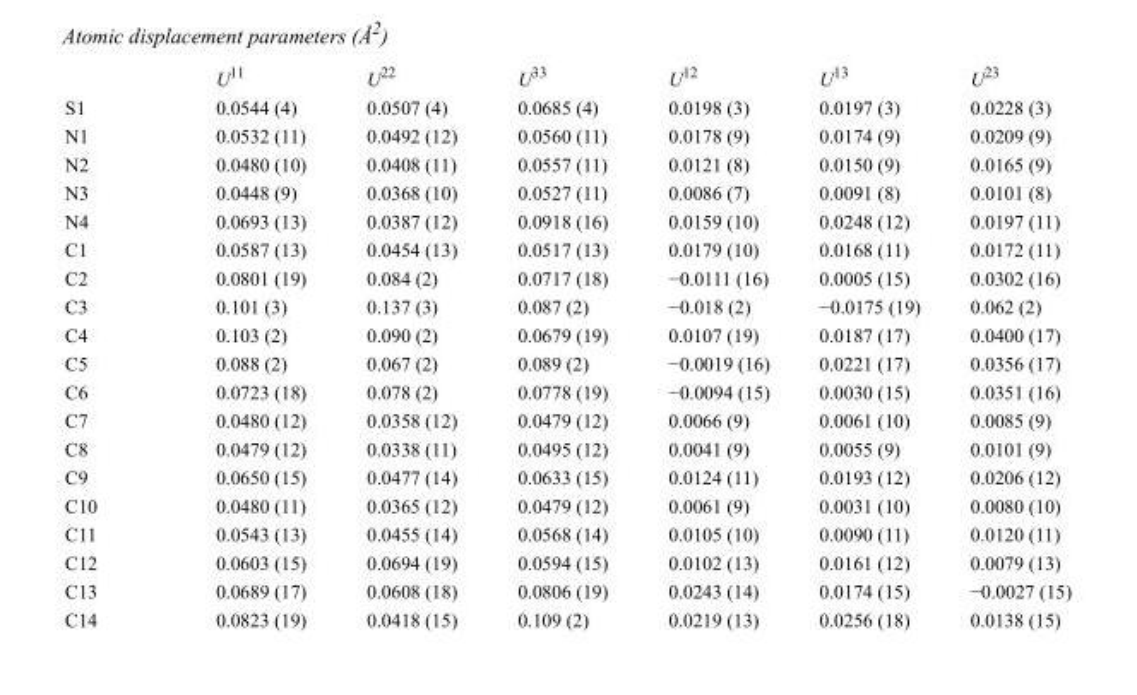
<table><thead><tr><td></td><td>U<sup>11</sup></td><td>U<sup>22</sup></td><td>U<sup>33</sup></td><td>U<sup>12</sup></td><td>U<sup>13</sup></td><td>U<sup>23</sup></td></tr></thead><tbody><tr><td>S1</td><td>0.0544 (4)</td><td>0.0507 (4)</td><td>0.0685 (4)</td><td>0.0198 (3)</td><td>0.0197 (3)</td><td>0.0228 (3)</td></tr><tr><td>N1</td><td>0.0532 (11)</td><td>0.0492 (12)</td><td>0.0560 (11)</td><td>0.0178 (9)</td><td>0.0174 (9)</td><td>0.0209 (9)</td></tr><tr><td>N2</td><td>0.0480 (10)</td><td>0.0408 (11)</td><td>0.0557 (11)</td><td>0.0121 (8)</td><td>0.0150 (9)</td><td>0.0165 (9)</td></tr><tr><td>N3</td><td>0.0448 (9)</td><td>0.0368 (10)</td><td>0.0527 (11)</td><td>0.0086 (7)</td><td>0.0091 (8)</td><td>0.0101 (8)</td></tr><tr><td>N4</td><td>0.0693 (13)</td><td>0.0387 (12)</td><td>0.0918 (16)</td><td>0.0159 (10)</td><td>0.0248 (12)</td><td>0.0197 (11)</td></tr><tr><td>C1</td><td>0.0587 (13)</td><td>0.0454 (13)</td><td>0.0517 (13)</td><td>0.0179 (10)</td><td>0.0168 (11)</td><td>0.0172 (11)</td></tr><tr><td>C2</td><td>0.0801 (19)</td><td>0.084 (2)</td><td>0.0717 (18)</td><td>−0.0111 (16)</td><td>0.0005 (15)</td><td>0.0302 (16)</td></tr><tr><td>C3</td><td>0.101 (3)</td><td>0.137 (3)</td><td>0.087 (2)</td><td>−0.018 (2)</td><td>−0.0175 (19)</td><td>0.062 (2)</td></tr><tr><td>C4</td><td>0.103 (2)</td><td>0.090 (2)</td><td>0.0679 (19)</td><td>0.0107 (19)</td><td>0.0187 (17)</td><td>0.0400 (17)</td></tr><tr><td>C5</td><td>0.088 (2)</td><td>0.067 (2)</td><td>0.089 (2)</td><td>−0.0019 (16)</td><td>0.0221 (17)</td><td>0.0356 (17)</td></tr><tr><td>C6</td><td>0.0723 (18)</td><td>0.078 (2)</td><td>0.0778 (19)</td><td>−0.0094 (15)</td><td>0.0030 (15)</td><td>0.0351 (16)</td></tr><tr><td>C7</td><td>0.0480 (12)</td><td>0.0358 (12)</td><td>0.0479 (12)</td><td>0.0066 (9)</td><td>0.0061 (10)</td><td>0.0085 (9)</td></tr><tr><td>C8</td><td>0.0479 (12)</td><td>0.0338 (11)</td><td>0.0495 (12)</td><td>0.0041 (9)</td><td>0.0055 (9)</td><td>0.0101 (9)</td></tr><tr><td>C9</td><td>0.0650 (15)</td><td>0.0477 (14)</td><td>0.0633 (15)</td><td>0.0124 (11)</td><td>0.0193 (12)</td><td>0.0206 (12)</td></tr><tr><td>C10</td><td>0.0480 (11)</td><td>0.0365 (12)</td><td>0.0479 (12)</td><td>0.0061 (9)</td><td>0.0031 (10)</td><td>0.0080 (10)</td></tr><tr><td>C11</td><td>0.0543 (13)</td><td>0.0455 (14)</td><td>0.0568 (14)</td><td>0.0105 (10)</td><td>0.0090 (11)</td><td>0.0120 (11)</td></tr><tr><td>C12</td><td>0.0603 (15)</td><td>0.0694 (19)</td><td>0.0594 (15)</td><td>0.0102 (13)</td><td>0.0161 (12)</td><td>0.0079 (13)</td></tr><tr><td>C13</td><td>0.0689 (17)</td><td>0.0608 (18)</td><td>0.0806 (19)</td><td>0.0243 (14)</td><td>0.0174 (15)</td><td>−0.0027 (15)</td></tr><tr><td>C14</td><td>0.0823 (19)</td><td>0.0418 (15)</td><td>0.109 (2)</td><td>0.0219 (13)</td><td>0.0256 (18)</td><td>0.0138 (15)</td></tr></tbody></table>